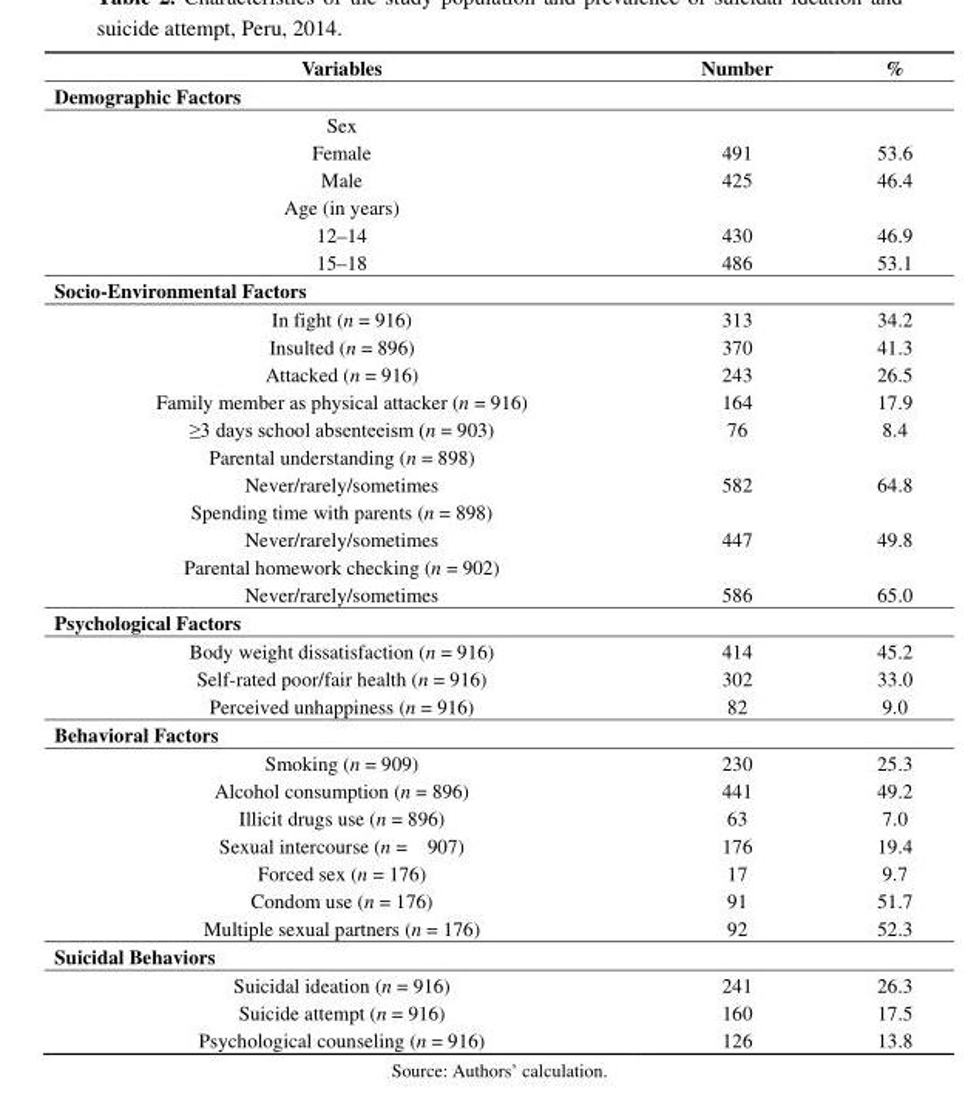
<table><thead><tr><td>Variables</td><td>Number</td><td>%</td></tr></thead><tbody><tr><td colspan="3">Demographic Factors</td></tr><tr><td colspan="3">Sex</td></tr><tr><td>Female</td><td>491</td><td>53.6</td></tr><tr><td>Male</td><td>425</td><td>46.4</td></tr><tr><td colspan="3">Age (in years)</td></tr><tr><td>12–14</td><td>430</td><td>46.9</td></tr><tr><td>15–18</td><td>486</td><td>53.1</td></tr><tr><td colspan="3">Socio-Environmental Factors</td></tr><tr><td>In fight (n = 916)</td><td>313</td><td>34.2</td></tr><tr><td>Insulted (n = 896)</td><td>370</td><td>41.3</td></tr><tr><td>Attacked (n = 916)</td><td>243</td><td>26.5</td></tr><tr><td>Family member as physical attacker (n = 916)</td><td>164</td><td>17.9</td></tr><tr><td>≥3 days school absenteeism (n = 903)</td><td>76</td><td>8.4</td></tr><tr><td colspan="3">Parental understanding (n = 898)</td></tr><tr><td>Never/rarely/sometimes</td><td>582</td><td>64.8</td></tr><tr><td colspan="3">Spending time with parents (n = 898)</td></tr><tr><td>Never/rarely/sometimes</td><td>447</td><td>49.8</td></tr><tr><td colspan="3">Parental homework checking (n = 902)</td></tr><tr><td>Never/rarely/sometimes</td><td>586</td><td>65.0</td></tr><tr><td colspan="3">Psychological Factors</td></tr><tr><td>Body weight dissatisfaction (n = 916)</td><td>414</td><td>45.2</td></tr><tr><td>Self-rated poor/fair health (n = 916)</td><td>302</td><td>33.0</td></tr><tr><td>Perceived unhappiness (n = 916)</td><td>82</td><td>9.0</td></tr><tr><td colspan="3">Behavioral Factors</td></tr><tr><td>Smoking (n = 909)</td><td>230</td><td>25.3</td></tr><tr><td>Alcohol consumption (n = 896)</td><td>441</td><td>49.2</td></tr><tr><td>Illicit drugs use (n = 896)</td><td>63</td><td>7.0</td></tr><tr><td>Sexual intercourse (n = 907)</td><td>176</td><td>19.4</td></tr><tr><td>Forced sex (n = 176)</td><td>17</td><td>9.7</td></tr><tr><td>Condom use (n = 176)</td><td>91</td><td>51.7</td></tr><tr><td>Multiple sexual partners (n = 176)</td><td>92</td><td>52.3</td></tr><tr><td colspan="3">Suicidal Behaviors</td></tr><tr><td>Suicidal ideation (n = 916)</td><td>241</td><td>26.3</td></tr><tr><td>Suicide attempt (n = 916)</td><td>160</td><td>17.5</td></tr><tr><td>Psychological counseling (n = 916)</td><td>126</td><td>13.8</td></tr></tbody></table>